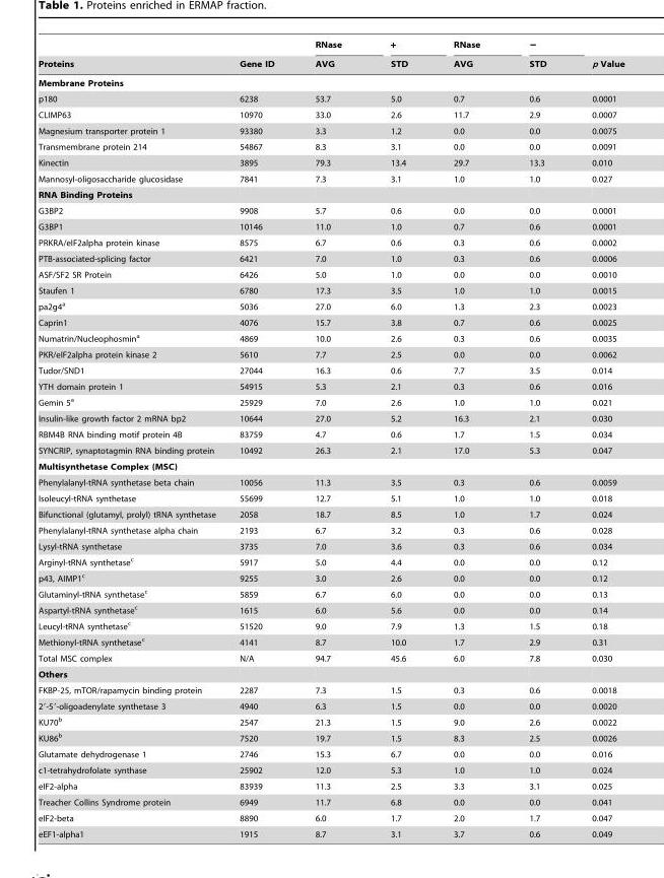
<table><thead><tr><td rowspan="2">Proteins</td><td rowspan="2">Gene ID</td><td rowspan="2">RNase AVG</td><td rowspan="2">+ STD</td><td rowspan="2">RNase AVG</td><td rowspan="2">− STD</td><td rowspan="2">p Value</td></tr><tr></tr></thead><tbody><tr><td colspan="7">Membrane Proteins</td></tr><tr><td>p180</td><td>6238</td><td>53.7</td><td>5.0</td><td>0.7</td><td>0.6</td><td>0.0001</td></tr><tr><td>CLIMP63</td><td>10970</td><td>33.0</td><td>2.6</td><td>11.7</td><td>2.9</td><td>0.0007</td></tr><tr><td>Magnesium transporter protein 1</td><td>93380</td><td>3.3</td><td>1.2</td><td>0.0</td><td>0.0</td><td>0.0075</td></tr><tr><td>Transmembrane protein 214</td><td>54867</td><td>8.3</td><td>3.1</td><td>0.0</td><td>0.0</td><td>0.0091</td></tr><tr><td>Kinectin</td><td>3895</td><td>79.3</td><td>13.4</td><td>29.7</td><td>13.3</td><td>0.010</td></tr><tr><td>Mannosyl-oligosaccharide glucosidase</td><td>7841</td><td>7.3</td><td>3.1</td><td>1.0</td><td>1.0</td><td>0.027</td></tr><tr><td colspan="7">RNA Binding Proteins</td></tr><tr><td>G3BP2</td><td>9908</td><td>5.7</td><td>0.6</td><td>0.0</td><td>0.0</td><td>0.0001</td></tr><tr><td>G3BP1</td><td>10146</td><td>11.0</td><td>1.0</td><td>0.7</td><td>0.6</td><td>0.0001</td></tr><tr><td>PRKRA/eIF2alpha protein kinase</td><td>8575</td><td>6.7</td><td>0.6</td><td>0.3</td><td>0.6</td><td>0.0002</td></tr><tr><td>PTB-associated-splicing factor</td><td>6421</td><td>7.0</td><td>1.0</td><td>0.3</td><td>0.6</td><td>0.0006</td></tr><tr><td>ASF/SF2 SR Protein</td><td>6426</td><td>5.0</td><td>1.0</td><td>0.0</td><td>0.0</td><td>0.0010</td></tr><tr><td>Staufen 1</td><td>6780</td><td>17.3</td><td>3.5</td><td>1.0</td><td>1.0</td><td>0.0015</td></tr><tr><td>pa2g4<sup>a</sup></td><td>5036</td><td>27.0</td><td>6.0</td><td>1.3</td><td>2.3</td><td>0.0023</td></tr><tr><td>Caprin1</td><td>4076</td><td>15.7</td><td>3.8</td><td>0.7</td><td>0.6</td><td>0.0025</td></tr><tr><td>Numatrin/Nucleophosmin<sup>a</sup></td><td>4869</td><td>10.0</td><td>2.6</td><td>0.3</td><td>0.6</td><td>0.0035</td></tr><tr><td>PKR/eIF2alpha protein kinase 2</td><td>5610</td><td>7.7</td><td>2.5</td><td>0.0</td><td>0.0</td><td>0.0062</td></tr><tr><td>Tudor/SND1</td><td>27044</td><td>16.3</td><td>0.6</td><td>7.7</td><td>3.5</td><td>0.014</td></tr><tr><td>YTH domain protein 1</td><td>54915</td><td>5.3</td><td>2.1</td><td>0.3</td><td>0.6</td><td>0.016</td></tr><tr><td>Gemin 5<sup>a</sup></td><td>25929</td><td>7.0</td><td>2.6</td><td>1.0</td><td>1.0</td><td>0.021</td></tr><tr><td>Insulin-like growth factor 2 mRNA bp2</td><td>10644</td><td>27.0</td><td>5.2</td><td>16.3</td><td>2.1</td><td>0.030</td></tr><tr><td>RBM4B RNA binding motif protein 4B</td><td>83759</td><td>4.7</td><td>0.6</td><td>1.7</td><td>1.5</td><td>0.034</td></tr><tr><td>SYNCRIP, synaptotagmin RNA binding protein</td><td>10492</td><td>26.3</td><td>2.1</td><td>17.0</td><td>5.3</td><td>0.047</td></tr><tr><td colspan="7">Multisynthetase Complex (MSC)</td></tr><tr><td>Phenylalanyl-tRNA synthetase beta chain</td><td>10056</td><td>11.3</td><td>3.5</td><td>0.3</td><td>0.6</td><td>0.0059</td></tr><tr><td>Isoleucyl-tRNA synthetase</td><td>55699</td><td>12.7</td><td>5.1</td><td>1.0</td><td>1.0</td><td>0.018</td></tr><tr><td>Bifunctional (glutamyl, prolyl) tRNA synthetase</td><td>2058</td><td>18.7</td><td>8.5</td><td>1.0</td><td>1.7</td><td>0.024</td></tr><tr><td>Phenylalanyl-tRNA synthetase alpha chain</td><td>2193</td><td>6.7</td><td>3.2</td><td>0.3</td><td>0.6</td><td>0.028</td></tr><tr><td>Lysyl-tRNA synthetase</td><td>3735</td><td>7.0</td><td>3.6</td><td>0.3</td><td>0.6</td><td>0.034</td></tr><tr><td>Arginyl-tRNA synthetase<sup>c</sup></td><td>5917</td><td>5.0</td><td>4.4</td><td>0.0</td><td>0.0</td><td>0.12</td></tr><tr><td>p43, AIMP1<sup>c</sup></td><td>9255</td><td>3.0</td><td>2.6</td><td>0.0</td><td>0.0</td><td>0.12</td></tr><tr><td>Glutaminyl-tRNA synthetase<sup>c</sup></td><td>5859</td><td>6.7</td><td>6.0</td><td>0.0</td><td>0.0</td><td>0.13</td></tr><tr><td>Aspartyl-tRNA synthetase<sup>c</sup></td><td>1615</td><td>6.0</td><td>5.6</td><td>0.0</td><td>0.0</td><td>0.14</td></tr><tr><td>Leucyl-tRNA synthetase<sup>c</sup></td><td>51520</td><td>9.0</td><td>7.9</td><td>1.3</td><td>1.5</td><td>0.18</td></tr><tr><td>Methionyl-tRNA synthetase<sup>c</sup></td><td>4141</td><td>8.7</td><td>10.0</td><td>1.7</td><td>2.9</td><td>0.31</td></tr><tr><td>Total MSC complex</td><td>N/A</td><td>94.7</td><td>45.6</td><td>6.0</td><td>7.8</td><td>0.030</td></tr><tr><td colspan="7">Others</td></tr><tr><td>FKBP-25, mTOR/rapamycin binding protein</td><td>2287</td><td>7.3</td><td>1.5</td><td>0.3</td><td>0.6</td><td>0.0018</td></tr><tr><td>2′-5′-oligoadenylate synthetase 3</td><td>4940</td><td>6.3</td><td>1.5</td><td>0.0</td><td>0.0</td><td>0.0020</td></tr><tr><td>KU70<sup>b</sup></td><td>2547</td><td>21.3</td><td>1.5</td><td>9.0</td><td>2.6</td><td>0.0022</td></tr><tr><td>KU86<sup>b</sup></td><td>7520</td><td>19.7</td><td>1.5</td><td>8.3</td><td>2.5</td><td>0.0026</td></tr><tr><td>Glutamate dehydrogenase 1</td><td>2746</td><td>15.3</td><td>6.7</td><td>0.0</td><td>0.0</td><td>0.016</td></tr><tr><td>c1-tetrahydrofolate synthase</td><td>25902</td><td>12.0</td><td>5.3</td><td>1.0</td><td>1.0</td><td>0.024</td></tr><tr><td>eIF2-alpha</td><td>83939</td><td>11.3</td><td>2.5</td><td>3.3</td><td>3.1</td><td>0.025</td></tr><tr><td>Treacher Collins Syndrome protein</td><td>6949</td><td>11.7</td><td>6.8</td><td>0.0</td><td>0.0</td><td>0.041</td></tr><tr><td>eIF2-beta</td><td>8890</td><td>6.0</td><td>1.7</td><td>2.0</td><td>1.7</td><td>0.047</td></tr><tr><td>eEF1-alpha1</td><td>1915</td><td>8.7</td><td>3.1</td><td>3.7</td><td>0.6</td><td>0.049</td></tr></tbody></table>